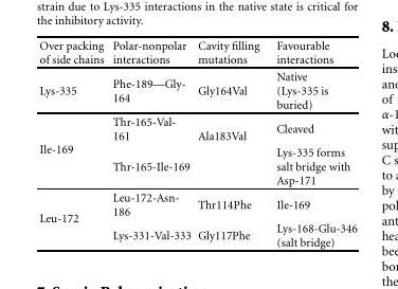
<table><thead><tr><td>Over packing of side chains</td><td>Polar-nonpolar interactions</td><td>Cavity filling mutations</td><td>Favourable interactions</td></tr></thead><tbody><tr><td>Lys-335</td><td>Phe-189—Gly- 164</td><td>Gly164Val</td><td>Native (Lys-335 is buried)</td></tr><tr><td rowspan="2">Ile-169</td><td>Thr-165-Val- 161</td><td rowspan="2">Ala183Val</td><td>Cleaved</td></tr><tr><td>Thr-165-Ile-169</td><td>Lys-335 forms salt bridge with Asp-171</td></tr><tr><td rowspan="2">Leu-172</td><td>Leu-172-Asn- 186</td><td>Thr114Phe</td><td>Ile-169</td></tr><tr><td>Lys-331-Val-333</td><td>Gly117Phe</td><td>Lys-168-Glu-346 (salt bridge)</td></tr></tbody></table>